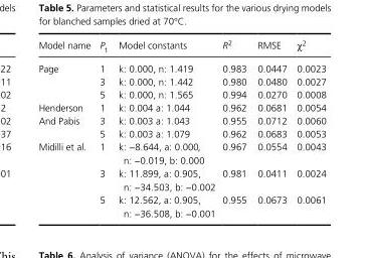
<table><thead><tr><td>Model name</td><td>P<sub>t</sub></td><td>Model constants</td><td>R<sup>2</sup></td><td>RMSE</td><td>χ<sup>2</sup></td></tr></thead><tbody><tr><td rowspan="3">Page</td><td>1</td><td>k: 0.000, n: 1.419</td><td>0.983</td><td>0.0447</td><td>0.0023</td></tr><tr><td>3</td><td>k: 0.000, n: 1.442</td><td>0.980</td><td>0.0480</td><td>0.0027</td></tr><tr><td>5</td><td>k: 0.000, n: 1.565</td><td>0.994</td><td>0.0270</td><td>0.0008</td></tr><tr><td>Henderson</td><td>1</td><td>k: 0.004 a: 1.044</td><td>0.962</td><td>0.0681</td><td>0.0054</td></tr><tr><td rowspan="2">And Pabis</td><td>3</td><td>k: 0.003 a: 1.043</td><td>0.955</td><td>0.0712</td><td>0.0060</td></tr><tr><td>5</td><td>k: 0.003 a: 1.079</td><td>0.962</td><td>0.0683</td><td>0.0053</td></tr><tr><td rowspan="3">Midilli et al.</td><td>1</td><td>k: −8.644, a: 0.000, n: −0.019, b: 0.000</td><td>0.967</td><td>0.0554</td><td>0.0043</td></tr><tr><td>3</td><td>k: 11.899, a: 0.905, n: −34.503, b: −0.002</td><td>0.981</td><td>0.0411</td><td>0.0024</td></tr><tr><td>5</td><td>k: 12.562, a: 0.905, n: −36.508, b: −0.001</td><td>0.955</td><td>0.0673</td><td>0.0061</td></tr></tbody></table>